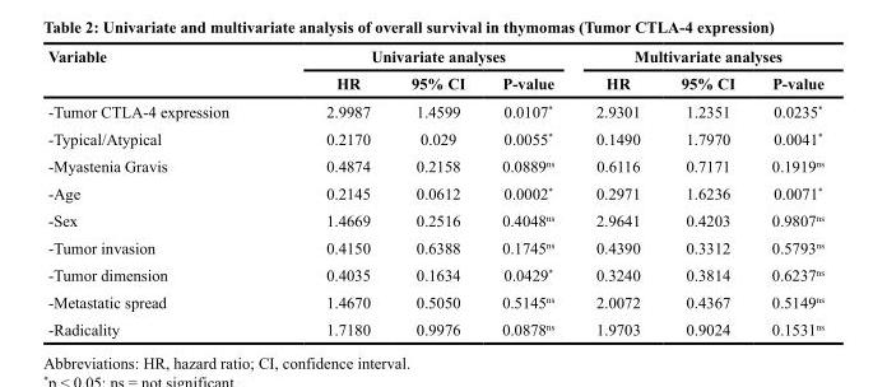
<table><thead><tr><td rowspan="2">Variable</td><td colspan="3">Univariate analyses</td><td colspan="3">Multivariate analyses</td></tr><tr><td>HR</td><td>95% CI</td><td>P-value</td><td>HR</td><td>95% CI</td><td>P-value</td></tr></thead><tbody><tr><td>-Tumor CTLA-4 expression</td><td>2.9987</td><td>1.4599</td><td>0.0107*</td><td>2.9301</td><td>1.2351</td><td>0.0235*</td></tr><tr><td>-Typical/Atypical</td><td>0.2170</td><td>0.029</td><td>0.0055*</td><td>0.1490</td><td>1.7970</td><td>0.0041*</td></tr><tr><td>-Myastenia Gravis</td><td>0.4874</td><td>0.2158</td><td>0.0889<sup>ns</sup></td><td>0.6116</td><td>0.7171</td><td>0.1919<sup>ns</sup></td></tr><tr><td>-Age</td><td>0.2145</td><td>0.0612</td><td>0.0002*</td><td>0.2971</td><td>1.6236</td><td>0.0071*</td></tr><tr><td>-Sex</td><td>1.4669</td><td>0.2516</td><td>0.4048<sup>ns</sup></td><td>2.9641</td><td>0.4203</td><td>0.9807<sup>ns</sup></td></tr><tr><td>-Tumor invasion</td><td>0.4150</td><td>0.6388</td><td>0.1745<sup>ns</sup></td><td>0.4390</td><td>0.3312</td><td>0.5793<sup>ns</sup></td></tr><tr><td>-Tumor dimension</td><td>0.4035</td><td>0.1634</td><td>0.0429*</td><td>0.3240</td><td>0.3814</td><td>0.6237<sup>ns</sup></td></tr><tr><td>-Metastatic spread</td><td>1.4670</td><td>0.5050</td><td>0.5145<sup>ns</sup></td><td>2.0072</td><td>0.4367</td><td>0.5149<sup>ns</sup></td></tr><tr><td>-Radicality</td><td>1.7180</td><td>0.9976</td><td>0.0878<sup>ns</sup></td><td>1.9703</td><td>0.9024</td><td>0.1531<sup>ns</sup></td></tr></tbody></table>